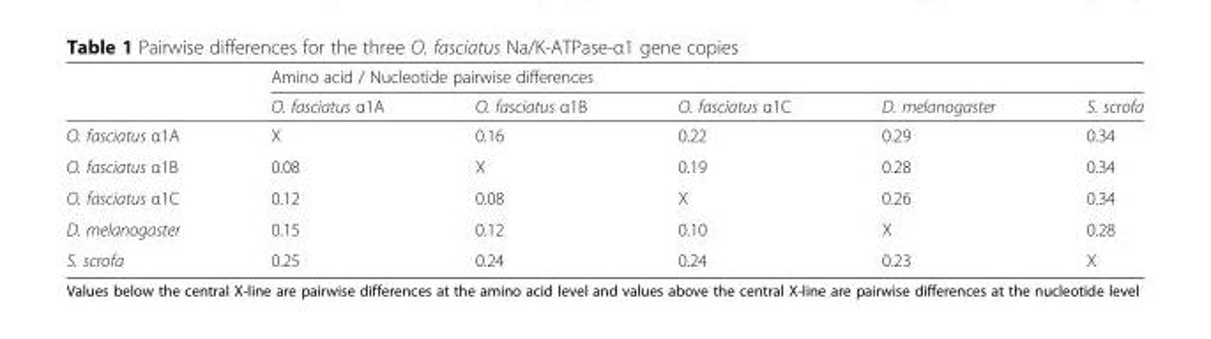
<table><thead><tr><td rowspan="2"></td><td colspan="5">Amino acid / Nucleotide pairwise differences</td></tr><tr><td>O. fasciatus α1A</td><td>O. fasciatus α1B</td><td>O. fasciatus α1C</td><td>D. melanogaster</td><td>S. scrofa</td></tr></thead><tbody><tr><td>O. fasciatus α1A</td><td>X</td><td>0.16</td><td>0.22</td><td>0.29</td><td>0.34</td></tr><tr><td>O. fasciatus α1B</td><td>0.08</td><td>X</td><td>0.19</td><td>0.28</td><td>0.34</td></tr><tr><td>O. fasciatus α1C</td><td>0.12</td><td>0.08</td><td>X</td><td>0.26</td><td>0.34</td></tr><tr><td>D. melanogaster</td><td>0.15</td><td>0.12</td><td>0.10</td><td>X</td><td>0.28</td></tr><tr><td>S. scrofa</td><td>0.25</td><td>0.24</td><td>0.24</td><td>0.23</td><td>X</td></tr></tbody></table>